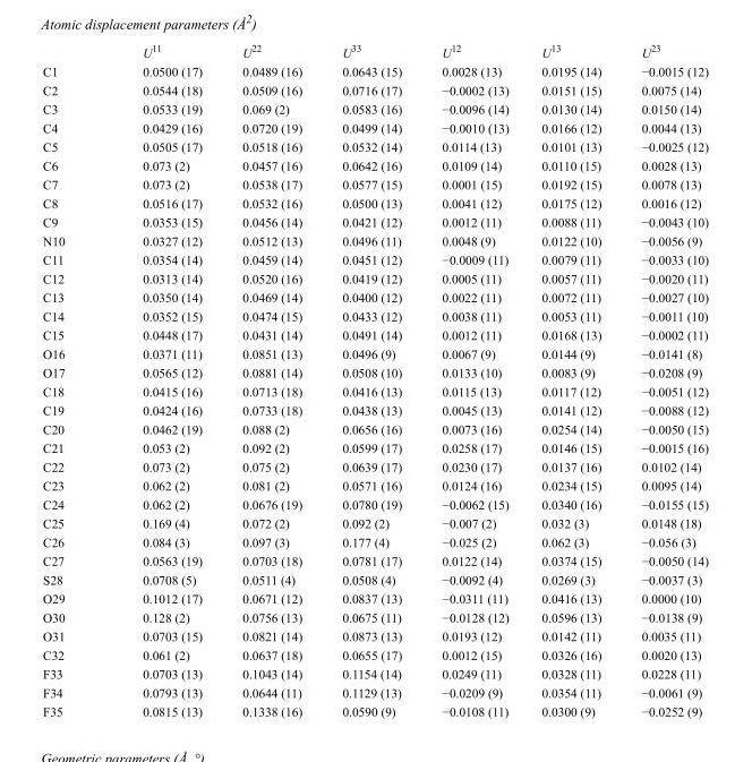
<table><thead><tr><td></td><td>U<sup>11</sup></td><td>U<sup>22</sup></td><td>U<sup>33</sup></td><td>U<sup>12</sup></td><td>U<sup>13</sup></td><td>U<sup>23</sup></td></tr></thead><tbody><tr><td>C1</td><td>0.0500 (17)</td><td>0.0489 (16)</td><td>0.0643 (15)</td><td>0.0028 (13)</td><td>0.0195 (14)</td><td>−0.0015 (12)</td></tr><tr><td>C2</td><td>0.0544 (18)</td><td>0.0509 (16)</td><td>0.0716 (17)</td><td>−0.0002 (13)</td><td>0.0151 (15)</td><td>0.0075 (14)</td></tr><tr><td>C3</td><td>0.0533 (19)</td><td>0.069 (2)</td><td>0.0583 (16)</td><td>−0.0096 (14)</td><td>0.0130 (14)</td><td>0.0150 (14)</td></tr><tr><td>C4</td><td>0.0429 (16)</td><td>0.0720 (19)</td><td>0.0499 (14)</td><td>−0.0010 (13)</td><td>0.0166 (12)</td><td>0.0044 (13)</td></tr><tr><td>C5</td><td>0.0505 (17)</td><td>0.0518 (16)</td><td>0.0532 (14)</td><td>0.0114 (13)</td><td>0.0101 (13)</td><td>−0.0025 (12)</td></tr><tr><td>C6</td><td>0.073 (2)</td><td>0.0457 (16)</td><td>0.0642 (16)</td><td>0.0109 (14)</td><td>0.0110 (15)</td><td>0.0028 (13)</td></tr><tr><td>C7</td><td>0.073 (2)</td><td>0.0538 (17)</td><td>0.0577 (15)</td><td>0.0001 (15)</td><td>0.0192 (15)</td><td>0.0078 (13)</td></tr><tr><td>C8</td><td>0.0516 (17)</td><td>0.0532 (16)</td><td>0.0500 (13)</td><td>0.0041 (12)</td><td>0.0175 (12)</td><td>0.0016 (12)</td></tr><tr><td>C9</td><td>0.0353 (15)</td><td>0.0456 (14)</td><td>0.0421 (12)</td><td>0.0012 (11)</td><td>0.0088 (11)</td><td>−0.0043 (10)</td></tr><tr><td>N10</td><td>0.0327 (12)</td><td>0.0512 (13)</td><td>0.0496 (11)</td><td>0.0048 (9)</td><td>0.0122 (10)</td><td>−0.0056 (9)</td></tr><tr><td>C11</td><td>0.0354 (14)</td><td>0.0459 (14)</td><td>0.0451 (12)</td><td>−0.0009 (11)</td><td>0.0079 (11)</td><td>−0.0033 (10)</td></tr><tr><td>C12</td><td>0.0313 (14)</td><td>0.0520 (16)</td><td>0.0419 (12)</td><td>0.0005 (11)</td><td>0.0057 (11)</td><td>−0.0020 (11)</td></tr><tr><td>C13</td><td>0.0350 (14)</td><td>0.0469 (14)</td><td>0.0400 (12)</td><td>0.0022 (11)</td><td>0.0072 (11)</td><td>−0.0027 (10)</td></tr><tr><td>C14</td><td>0.0352 (15)</td><td>0.0474 (15)</td><td>0.0433 (12)</td><td>0.0038 (11)</td><td>0.0053 (11)</td><td>−0.0011 (10)</td></tr><tr><td>C15</td><td>0.0448 (17)</td><td>0.0431 (14)</td><td>0.0491 (14)</td><td>0.0012 (11)</td><td>0.0168 (13)</td><td>−0.0002 (11)</td></tr><tr><td>O16</td><td>0.0371 (11)</td><td>0.0851 (13)</td><td>0.0496 (9)</td><td>0.0067 (9)</td><td>0.0144 (9)</td><td>−0.0141 (8)</td></tr><tr><td>O17</td><td>0.0565 (12)</td><td>0.0881 (14)</td><td>0.0508 (10)</td><td>0.0133 (10)</td><td>0.0083 (9)</td><td>−0.0208 (9)</td></tr><tr><td>C18</td><td>0.0415 (16)</td><td>0.0713 (18)</td><td>0.0416 (13)</td><td>0.0115 (13)</td><td>0.0117 (12)</td><td>−0.0051 (12)</td></tr><tr><td>C19</td><td>0.0424 (16)</td><td>0.0733 (18)</td><td>0.0438 (13)</td><td>0.0045 (13)</td><td>0.0141 (12)</td><td>−0.0088 (12)</td></tr><tr><td>C20</td><td>0.0462 (19)</td><td>0.088 (2)</td><td>0.0656 (16)</td><td>0.0073 (16)</td><td>0.0254 (14)</td><td>−0.0050 (15)</td></tr><tr><td>C21</td><td>0.053 (2)</td><td>0.092 (2)</td><td>0.0599 (17)</td><td>0.0258 (17)</td><td>0.0146 (15)</td><td>−0.0015 (16)</td></tr><tr><td>C22</td><td>0.073 (2)</td><td>0.075 (2)</td><td>0.0639 (17)</td><td>0.0230 (17)</td><td>0.0137 (16)</td><td>0.0102 (14)</td></tr><tr><td>C23</td><td>0.062 (2)</td><td>0.081 (2)</td><td>0.0571 (16)</td><td>0.0124 (16)</td><td>0.0234 (15)</td><td>0.0095 (14)</td></tr><tr><td>C24</td><td>0.062 (2)</td><td>0.0676 (19)</td><td>0.0780 (19)</td><td>−0.0062 (15)</td><td>0.0340 (16)</td><td>−0.0155 (15)</td></tr><tr><td>C25</td><td>0.169 (4)</td><td>0.072 (2)</td><td>0.092 (2)</td><td>−0.007 (2)</td><td>0.032 (3)</td><td>0.0148 (18)</td></tr><tr><td>C26</td><td>0.084 (3)</td><td>0.097 (3)</td><td>0.177 (4)</td><td>−0.025 (2)</td><td>0.062 (3)</td><td>−0.056 (3)</td></tr><tr><td>C27</td><td>0.0563 (19)</td><td>0.0703 (18)</td><td>0.0781 (17)</td><td>0.0122 (14)</td><td>0.0374 (15)</td><td>−0.0050 (14)</td></tr><tr><td>S28</td><td>0.0708 (5)</td><td>0.0511 (4)</td><td>0.0508 (4)</td><td>−0.0092 (4)</td><td>0.0269 (3)</td><td>−0.0037 (3)</td></tr><tr><td>O29</td><td>0.1012 (17)</td><td>0.0671 (12)</td><td>0.0837 (13)</td><td>−0.0311 (11)</td><td>0.0416 (13)</td><td>0.0000 (10)</td></tr><tr><td>O30</td><td>0.128 (2)</td><td>0.0756 (13)</td><td>0.0675 (11)</td><td>−0.0128 (12)</td><td>0.0596 (13)</td><td>−0.0138 (9)</td></tr><tr><td>O31</td><td>0.0703 (15)</td><td>0.0821 (14)</td><td>0.0873 (13)</td><td>0.0193 (12)</td><td>0.0142 (11)</td><td>0.0035 (11)</td></tr><tr><td>C32</td><td>0.061 (2)</td><td>0.0637 (18)</td><td>0.0655 (17)</td><td>0.0012 (15)</td><td>0.0326 (16)</td><td>0.0020 (13)</td></tr><tr><td>F33</td><td>0.0703 (13)</td><td>0.1043 (14)</td><td>0.1154 (14)</td><td>0.0249 (11)</td><td>0.0328 (11)</td><td>0.0228 (11)</td></tr><tr><td>F34</td><td>0.0793 (13)</td><td>0.0644 (11)</td><td>0.1129 (13)</td><td>−0.0209 (9)</td><td>0.0354 (11)</td><td>−0.0061 (9)</td></tr><tr><td>F35</td><td>0.0815 (13)</td><td>0.1338 (16)</td><td>0.0590 (9)</td><td>−0.0108 (11)</td><td>0.0300 (9)</td><td>−0.0252 (9)</td></tr></tbody></table>